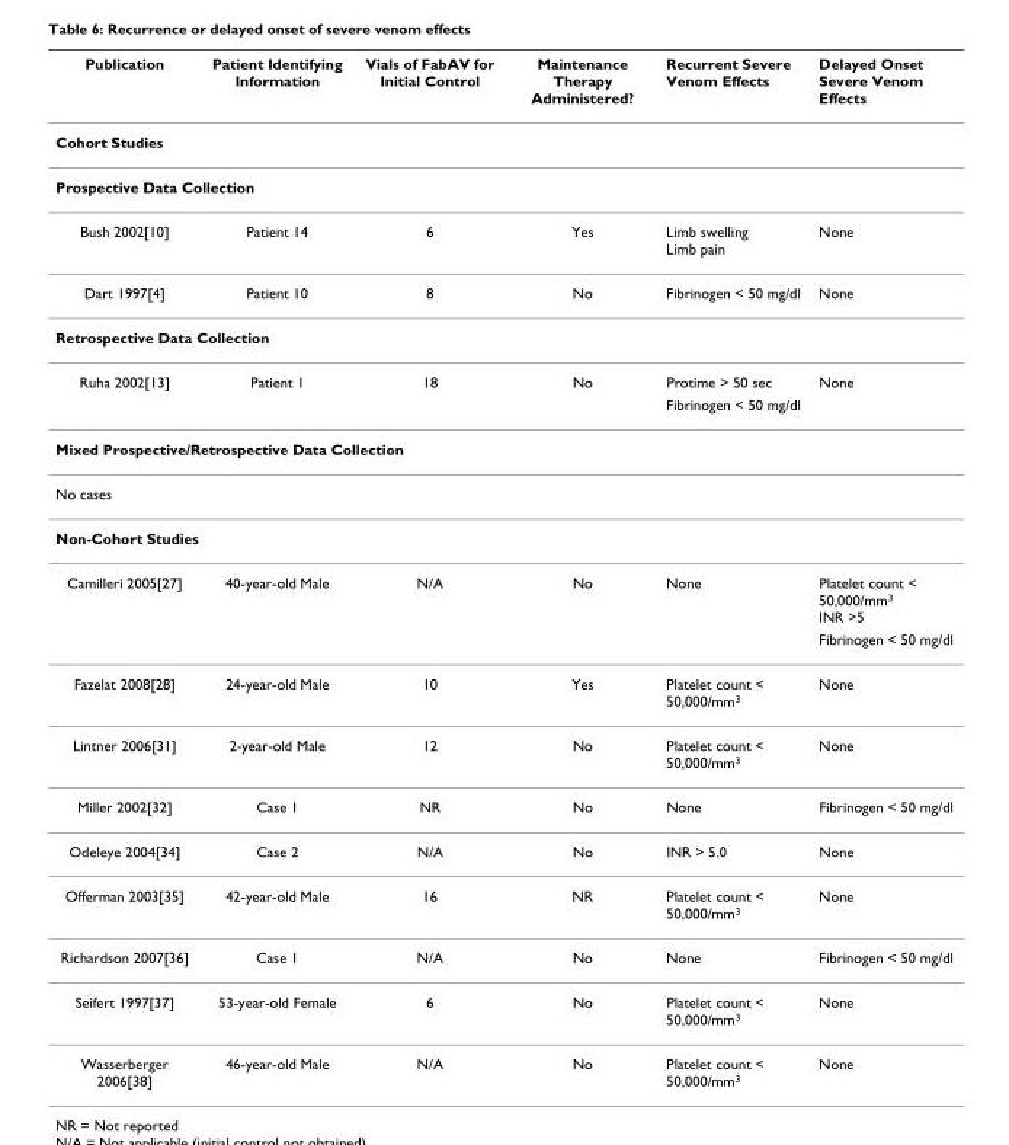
<table><thead><tr><td>Publication</td><td>Patient Identifying Information</td><td>Vials of FabAV for Initial Control</td><td>Maintenance Therapy Administered?</td><td>Recurrent Severe Venom Effects</td><td>Delayed Onset Severe Venom Effects</td></tr></thead><tbody><tr><td colspan="6">Cohort Studies</td></tr><tr><td colspan="6">Prospective Data Collection</td></tr><tr><td>Bush 2002[10]</td><td>Patient 14</td><td>6</td><td>Yes</td><td>Limb swelling Limb pain</td><td>None</td></tr><tr><td>Dart 1997[4]</td><td>Patient 10</td><td>8</td><td>No</td><td>Fibrinogen &lt; 50 mg/dl</td><td>None</td></tr><tr><td colspan="6">Retrospective Data Collection</td></tr><tr><td rowspan="2">Ruha 2002[13]</td><td>Patient 1</td><td>18</td><td>No</td><td>Protime &gt; 50 sec</td><td>None</td></tr><tr><td></td><td></td><td></td><td>Fibrinogen &lt; 50 mg/dl</td><td></td></tr><tr><td colspan="6">Mixed Prospective/Retrospective Data Collection</td></tr><tr><td colspan="6">No cases</td></tr><tr><td colspan="6">Non-Cohort Studies</td></tr><tr><td rowspan="2">Camilleri 2005[27]</td><td>40-year-old Male</td><td>N/A</td><td>No</td><td>None</td><td>Platelet count &lt; 50,000/mm3 INR &gt;5</td></tr><tr><td></td><td></td><td></td><td></td><td>Fibrinogen &lt; 50 mg/dl</td></tr><tr><td>Fazelat 2008[28]</td><td>24-year-old Male</td><td>10</td><td>Yes</td><td>Platelet count &lt; 50,000/mm3</td><td>None</td></tr><tr><td>Lintner 2006[31]</td><td>2-year-old Male</td><td>12</td><td>No</td><td>Platelet count &lt; 50,000/mm3</td><td>None</td></tr><tr><td>Miller 2002[32]</td><td>Case 1</td><td>NR</td><td>No</td><td>None</td><td>Fibrinogen &lt; 50 mg/dl</td></tr><tr><td>Odeleye 2004[34]</td><td>Case 2</td><td>N/A</td><td>No</td><td>INR &gt; 5.0</td><td>None</td></tr><tr><td>Offerman 2003[35]</td><td>42-year-old Male</td><td>16</td><td>NR</td><td>Platelet count &lt; 50,000/mm3</td><td>None</td></tr><tr><td>Richardson 2007[36]</td><td>Case 1</td><td>N/A</td><td>No</td><td>None</td><td>Fibrinogen &lt; 50 mg/dl</td></tr><tr><td>Seifert 1997[37]</td><td>53-year-old Female</td><td>6</td><td>No</td><td>Platelet count &lt; 50,000/mm3</td><td>None</td></tr><tr><td>Wasserberger 2006[38]</td><td>46-year-old Male</td><td>N/A</td><td>No</td><td>Platelet count &lt; 50,000/mm3</td><td>None</td></tr></tbody></table>